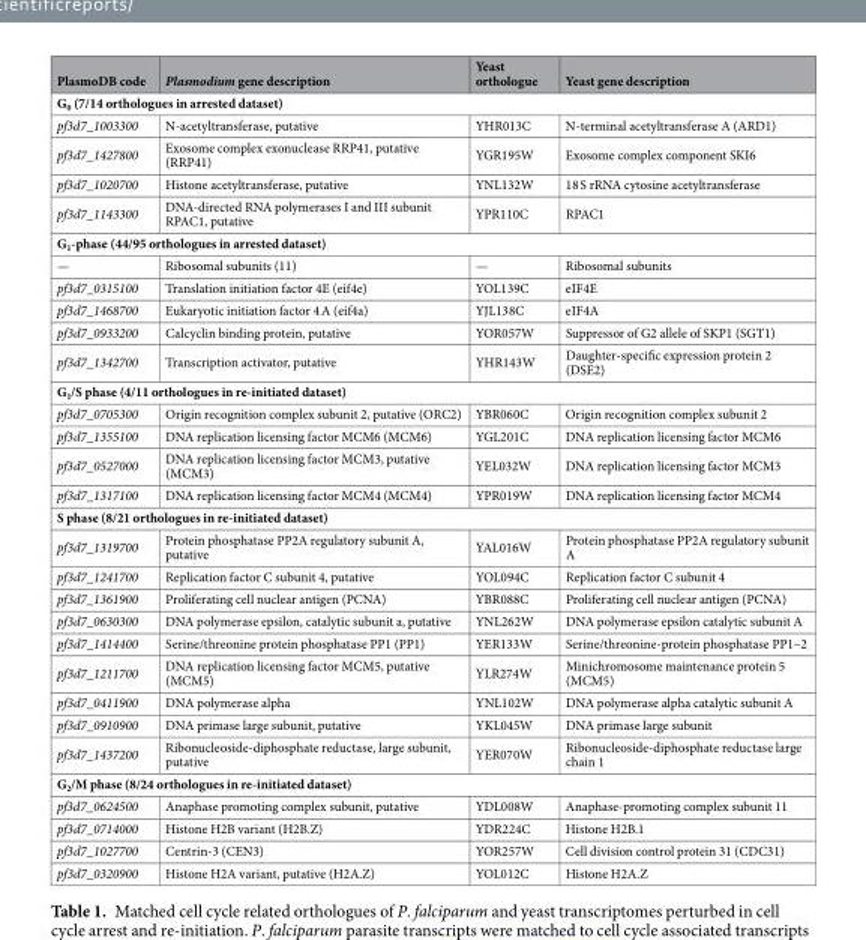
<table><thead><tr><td>PlasmoDB code</td><td>Plasmodium gene description</td><td>Yeast orthologue</td><td>Yeast gene description</td></tr></thead><tbody><tr><td colspan="4">G<sub>0</sub> (7/14 orthologues in arrested dataset)</td></tr><tr><td>pf3d7_1003300</td><td>N-acetyltransferase, putative</td><td>YHR013C</td><td>N-terminal acetyltransferase A (ARD1)</td></tr><tr><td>pf3d7_1427800</td><td>Exosome complex exonuclease RRP41, putative (RRP41)</td><td>YGR195W</td><td>Exosome complex component SKI6</td></tr><tr><td>pf3d7_1020700</td><td>Histone acetyltransferase, putative</td><td>YNL132W</td><td>18 S rRNA cytosine acetyltransferase</td></tr><tr><td>pf3d7_1143300</td><td>DNA-directed RNA polymerases I and III subunit RPAC1, putative</td><td>YPR110C</td><td>RPAC1</td></tr><tr><td colspan="4">G<sub>1</sub>-phase (44/95 orthologues in arrested dataset)</td></tr><tr><td>—</td><td>Ribosomal subunits (11)</td><td>—</td><td>Ribosomal subunits</td></tr><tr><td>pf3d7_0315100</td><td>Translation initiation factor 4E (eif4e)</td><td>YOL139C</td><td>eIF4E</td></tr><tr><td>pf3d7_1468700</td><td>Eukaryotic initiation factor 4 A (eif4a)</td><td>YJL138C</td><td>eIF4A</td></tr><tr><td>pf3d7_0933200</td><td>Calcyclin binding protein, putative</td><td>YOR057W</td><td>Suppressor of G2 allele of SKP1 (SGT1)</td></tr><tr><td>pf3d7_1342700</td><td>Transcription activator, putative</td><td>YHR143W</td><td>Daughter-specific expression protein 2 (DSE2)</td></tr><tr><td colspan="4">G<sub>1</sub>/S phase (4/11 orthologues in re-initiated dataset)</td></tr><tr><td>pf3d7_0705300</td><td>Origin recognition complex subunit 2, putative (ORC2)</td><td>YBR060C</td><td>Origin recognition complex subunit 2</td></tr><tr><td>pf3d7_1355100</td><td>DNA replication licensing factor MCM6 (MCM6)</td><td>YGL201C</td><td>DNA replication licensing factor MCM6</td></tr><tr><td>pf3d7_0527000</td><td>DNA replication licensing factor MCM3, putative (MCM3)</td><td>YEL032W</td><td>DNA replication licensing factor MCM3</td></tr><tr><td>pf3d7_1317100</td><td>DNA replication licensing factor MCM4 (MCM4)</td><td>YPR019W</td><td>DNA replication licensing factor MCM4</td></tr><tr><td colspan="4">S phase (8/21 orthologues in re-initiated dataset)</td></tr><tr><td>pf3d7_1319700</td><td>Protein phosphatase PP2A regulatory subunit A, putative</td><td>YAL016W</td><td>Protein phosphatase PP2A regulatory subunit A</td></tr><tr><td>pf3d7_1241700</td><td>Replication factor C subunit 4, putative</td><td>YOL094C</td><td>Replication factor C subunit 4</td></tr><tr><td>pf3d7_1361900</td><td>Proliferating cell nuclear antigen (PCNA)</td><td>YBR088C</td><td>Proliferating cell nuclear antigen (PCNA)</td></tr><tr><td>pf3d7_0630300</td><td>DNA polymerase epsilon, catalytic subunit a, putative</td><td>YNL262W</td><td>DNA polymerase epsilon catalytic subunit A</td></tr><tr><td>pf3d7_1414400</td><td>Serine/threonine protein phosphatase PP1 (PP1)</td><td>YER133W</td><td>Serine/threonine-protein phosphatase PP1–2</td></tr><tr><td>pf3d7_1211700</td><td>DNA replication licensing factor MCM5, putative (MCM5)</td><td>YLR274W</td><td>Minichromosome maintenance protein 5 (MCM5)</td></tr><tr><td>pf3d7_0411900</td><td>DNA polymerase alpha</td><td>YNL102W</td><td>DNA polymerase alpha catalytic subunit A</td></tr><tr><td>pf3d7_0910900</td><td>DNA primase large subunit, putative</td><td>YKL045W</td><td>DNA primase large subunit</td></tr><tr><td>pf3d7_1437200</td><td>Ribonucleoside-diphosphate reductase, large subunit, putative</td><td>YER070W</td><td>Ribonucleoside-diphosphate reductase large chain 1</td></tr><tr><td colspan="4">G<sub>2</sub>/M phase (8/24 orthologues in re-initiated dataset)</td></tr><tr><td>pf3d7_0624500</td><td>Anaphase promoting complex subunit, putative</td><td>YDL008W</td><td>Anaphase-promoting complex subunit 11</td></tr><tr><td>pf3d7_0714000</td><td>Histone H2B variant (H2B.Z)</td><td>YDR224C</td><td>Histone H2B.1</td></tr><tr><td>pf3d7_1027700</td><td>Centrin-3 (CEN3)</td><td>YOR257W</td><td>Cell division control protein 31 (CDC31)</td></tr><tr><td>pf3d7_0320900</td><td>Histone H2A variant, putative (H2A.Z)</td><td>YOL012C</td><td>Histone H2A.Z</td></tr></tbody></table>